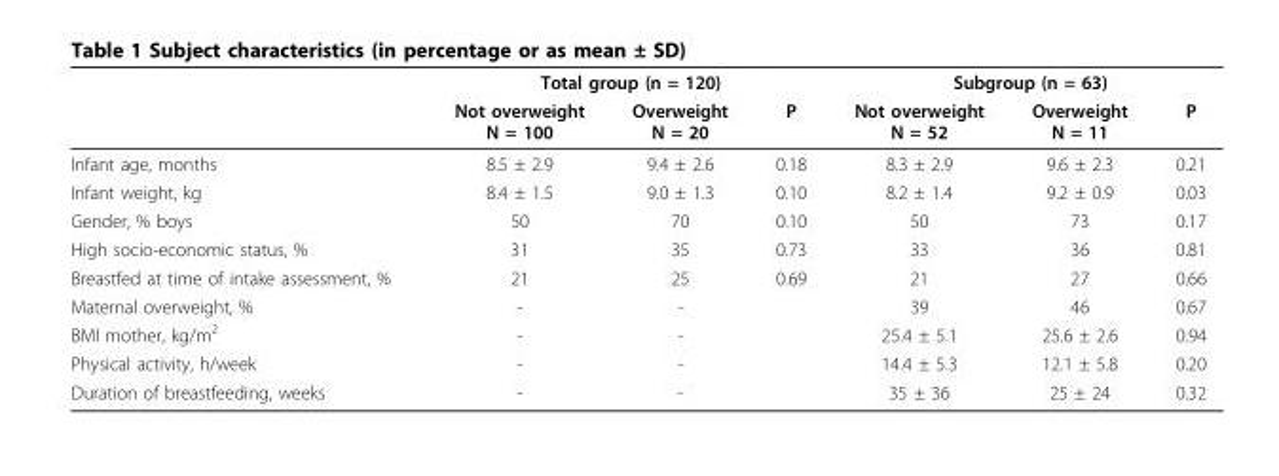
<table><thead><tr><td rowspan="2"></td><td colspan="3">Total group (n = 120)</td><td colspan="3">Subgroup (n = 63)</td></tr><tr><td>Not overweight N = 100</td><td>Overweight N = 20</td><td>P</td><td>Not overweight N = 52</td><td>Overweight N = 11</td><td>P</td></tr></thead><tbody><tr><td>Infant age, months</td><td>8.5 ± 2.9</td><td>9.4 ± 2.6</td><td>0.18</td><td>8.3 ± 2.9</td><td>9.6 ± 2.3</td><td>0.21</td></tr><tr><td>Infant weight, kg</td><td>8.4 ± 1.5</td><td>9.0 ± 1.3</td><td>0.10</td><td>8.2 ± 1.4</td><td>9.2 ± 0.9</td><td>0.03</td></tr><tr><td>Gender, % boys</td><td>50</td><td>70</td><td>0.10</td><td>50</td><td>73</td><td>0.17</td></tr><tr><td>High socio-economic status, %</td><td>31</td><td>35</td><td>0.73</td><td>33</td><td>36</td><td>0.81</td></tr><tr><td>Breastfed at time of intake assessment, %</td><td>21</td><td>25</td><td>0.69</td><td>21</td><td>27</td><td>0.66</td></tr><tr><td>Maternal overweight, %</td><td>-</td><td>-</td><td></td><td>39</td><td>46</td><td>0.67</td></tr><tr><td>BMI mother, kg/m<sup>2</sup></td><td>-</td><td>-</td><td></td><td>25.4 ± 5.1</td><td>25.6 ± 2.6</td><td>0.94</td></tr><tr><td>Physical activity, h/week</td><td>-</td><td>-</td><td></td><td>14.4 ± 5.3</td><td>12.1 ± 5.8</td><td>0.20</td></tr><tr><td>Duration of breastfeeding, weeks</td><td>-</td><td>-</td><td></td><td>35 ± 36</td><td>25 ± 24</td><td>0.32</td></tr></tbody></table>